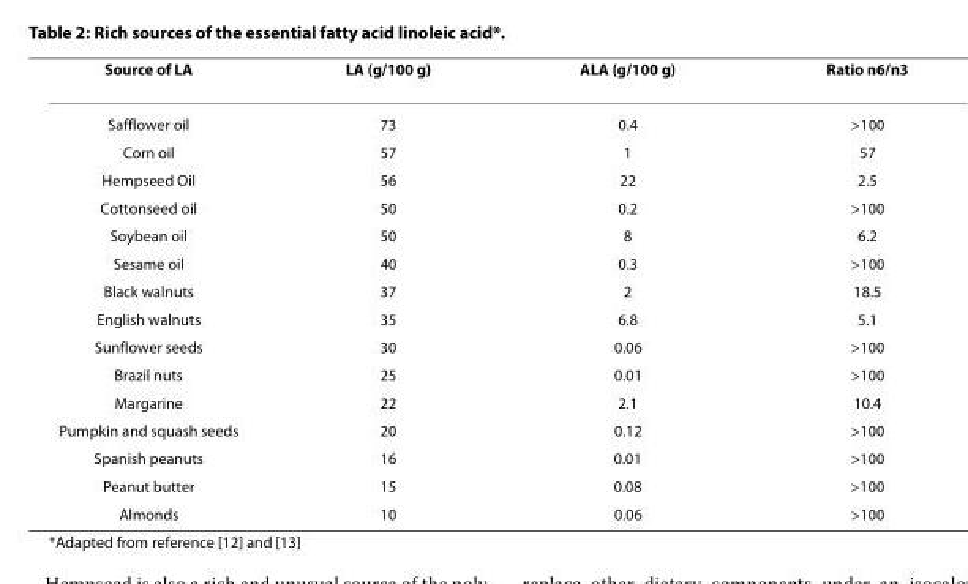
<table><thead><tr><td>Source of LA</td><td>LA (g/100 g)</td><td>ALA (g/100 g)</td><td>Ratio n6/n3</td></tr></thead><tbody><tr><td>Safflower oil</td><td>73</td><td>0.4</td><td>&gt;100</td></tr><tr><td>Corn oil</td><td>57</td><td>1</td><td>57</td></tr><tr><td>Hempseed Oil</td><td>56</td><td>22</td><td>2.5</td></tr><tr><td>Cottonseed oil</td><td>50</td><td>0.2</td><td>&gt;100</td></tr><tr><td>Soybean oil</td><td>50</td><td>8</td><td>6.2</td></tr><tr><td>Sesame oil</td><td>40</td><td>0.3</td><td>&gt;100</td></tr><tr><td>Black walnuts</td><td>37</td><td>2</td><td>18.5</td></tr><tr><td>English walnuts</td><td>35</td><td>6.8</td><td>5.1</td></tr><tr><td>Sunflower seeds</td><td>30</td><td>0.06</td><td>&gt;100</td></tr><tr><td>Brazil nuts</td><td>25</td><td>0.01</td><td>&gt;100</td></tr><tr><td>Margarine</td><td>22</td><td>2.1</td><td>10.4</td></tr><tr><td>Pumpkin and squash seeds</td><td>20</td><td>0.12</td><td>&gt;100</td></tr><tr><td>Spanish peanuts</td><td>16</td><td>0.01</td><td>&gt;100</td></tr><tr><td>Peanut butter</td><td>15</td><td>0.08</td><td>&gt;100</td></tr><tr><td>Almonds</td><td>10</td><td>0.06</td><td>&gt;100</td></tr></tbody></table>